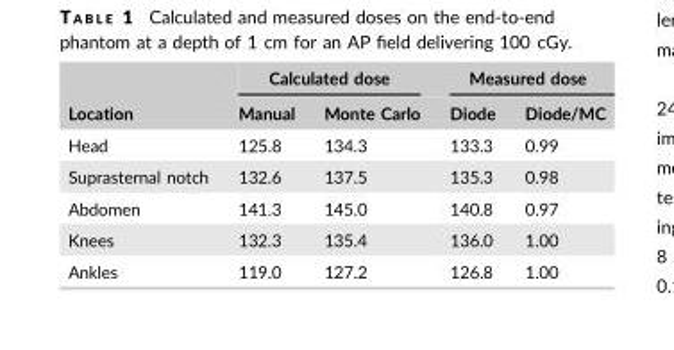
<table><thead><tr><td rowspan="2">Location</td><td colspan="2">Calculated dose</td><td colspan="2">Measured dose</td></tr><tr><td>Manual</td><td>Monte Carlo</td><td>Diode</td><td>Diode/MC</td></tr></thead><tbody><tr><td>Head</td><td>125.8</td><td>134.3</td><td>133.3</td><td>0.99</td></tr><tr><td>Suprasternal notch</td><td>132.6</td><td>137.5</td><td>135.3</td><td>0.98</td></tr><tr><td>Abdomen</td><td>141.3</td><td>145.0</td><td>140.8</td><td>0.97</td></tr><tr><td>Knees</td><td>132.3</td><td>135.4</td><td>136.0</td><td>1.00</td></tr><tr><td>Ankles</td><td>119.0</td><td>127.2</td><td>126.8</td><td>1.00</td></tr></tbody></table>